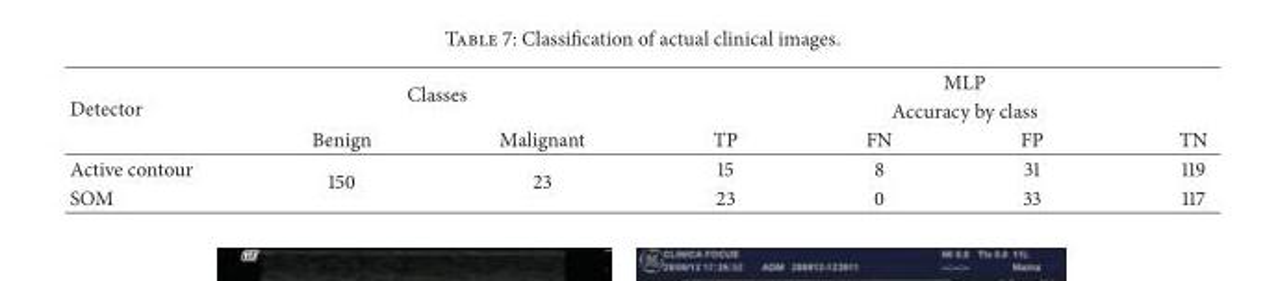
<table><thead><tr><td rowspan="3">Detector</td><td rowspan="2" colspan="2">Classes</td><td rowspan="2" colspan="4">MLP Accuracy by class</td></tr><tr></tr><tr><td>Benign</td><td>Malignant</td><td>TP</td><td>FN</td><td>FP</td><td>TN</td></tr></thead><tbody><tr><td>Active contour</td><td rowspan="2">150</td><td rowspan="2">23</td><td>15</td><td>8</td><td>31</td><td>119</td></tr><tr><td>SOM</td><td>23</td><td>0</td><td>33</td><td>117</td></tr></tbody></table>